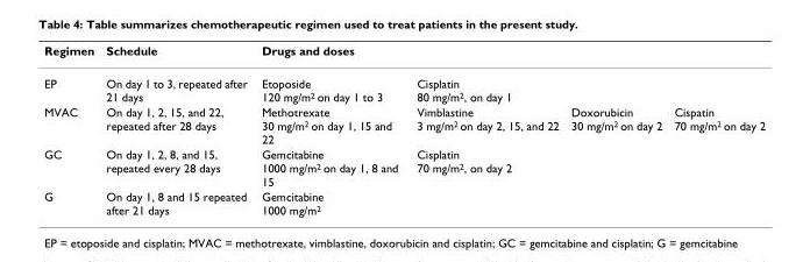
<table><thead><tr><td>Regimen</td><td>Schedule</td><td>Drugs and doses</td><td></td><td></td><td></td></tr></thead><tbody><tr><td>EP</td><td>On day 1 to 3, repeated after 21 days</td><td>Etoposide 120 mg/m<sup>2</sup> on day 1 to 3</td><td>Cisplatin 80 mg/m<sup>2</sup>, on day 1</td><td></td><td></td></tr><tr><td>MVAC</td><td>On day 1, 2, 15, and 22, repeated after 28 days</td><td>Methotrexate 30 mg/m<sup>2</sup> on day 1, 15 and 22</td><td>Vimblastine 3 mg/m<sup>2</sup> on day 2, 15, and 22</td><td>Doxorubicin 30 mg/m<sup>2</sup> on day 2</td><td>Cispatin 70 mg/m<sup>2</sup> on day 2</td></tr><tr><td>GC</td><td>On day 1, 2, 8, and 15, repeated every 28 days</td><td>Gemcitabine 1000 mg/m<sup>2</sup> on day 1, 8 and 15</td><td>Cisplatin 70 mg/m<sup>2</sup>, on day 2</td><td></td><td></td></tr><tr><td>G</td><td>On day 1, 8 and 15 repeated after 21 days</td><td>Gemcitabine 1000 mg/m<sup>2</sup></td><td></td><td></td><td></td></tr></tbody></table>